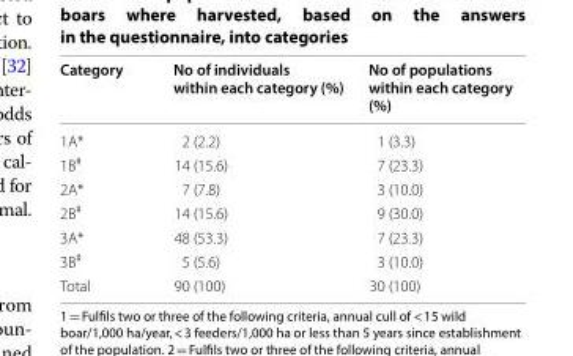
<table><thead><tr><td>Category</td><td>No of individuals within each category (%)</td><td>No of populations within each category (%)</td></tr></thead><tbody><tr><td>1A*</td><td>2 (2.2)</td><td>1 (3.3)</td></tr><tr><td>1B<sup>#</sup></td><td>14 (15.6)</td><td>7 (23.3)</td></tr><tr><td>2A*</td><td>7 (7.8)</td><td>3 (10.0)</td></tr><tr><td>2B<sup>#</sup></td><td>14 (15.6)</td><td>9 (30.0)</td></tr><tr><td>3A*</td><td>48 (53.3)</td><td>7 (23.3)</td></tr><tr><td>3B<sup>#</sup></td><td>5 (5.6)</td><td>3 (10.0)</td></tr><tr><td>Total</td><td>90 (100)</td><td>30 (100)</td></tr></tbody></table>